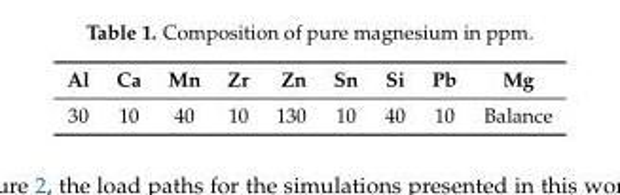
<table><thead><tr><td>Al</td><td>Ca</td><td>Mn</td><td>Zr</td><td>Zn</td><td>Sn</td><td>Si</td><td>Pb</td><td>Mg</td></tr></thead><tbody><tr><td>30</td><td>10</td><td>40</td><td>10</td><td>130</td><td>10</td><td>40</td><td>10</td><td>Balance</td></tr></tbody></table>